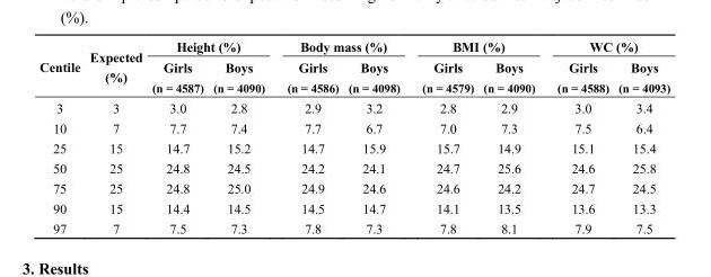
<table><thead><tr><td rowspan="3">Centile</td><td rowspan="3">Expected (%)</td><td colspan="2">Height (%)</td><td colspan="2">Body mass (%)</td><td colspan="2">BMI (%)</td><td colspan="2">WC (%)</td></tr><tr><td rowspan="2">Girls (n = 4587)</td><td rowspan="2">Boys (n = 4090)</td><td rowspan="2">Girls (n = 4586)</td><td rowspan="2">Boys (n = 4098)</td><td rowspan="2">Girls (n = 4579)</td><td rowspan="2">Boys (n = 4090)</td><td rowspan="2">Girls (n = 4588)</td><td rowspan="2">Boys (n = 4093)</td></tr><tr></tr></thead><tbody><tr><td>3</td><td>3</td><td>3.0</td><td>2.8</td><td>2.9</td><td>3.2</td><td>2.8</td><td>2.9</td><td>3.0</td><td>3.4</td></tr><tr><td>10</td><td>7</td><td>7.7</td><td>7.4</td><td>7.7</td><td>6.7</td><td>7.0</td><td>7.3</td><td>7.5</td><td>6.4</td></tr><tr><td>25</td><td>15</td><td>14.7</td><td>15.2</td><td>14.7</td><td>15.9</td><td>15.7</td><td>14.9</td><td>15.1</td><td>15.4</td></tr><tr><td>50</td><td>25</td><td>24.8</td><td>24.5</td><td>24.2</td><td>24.1</td><td>24.7</td><td>25.6</td><td>24.6</td><td>25.8</td></tr><tr><td>75</td><td>25</td><td>24.8</td><td>25.0</td><td>24.9</td><td>24.6</td><td>24.6</td><td>24.2</td><td>24.7</td><td>24.5</td></tr><tr><td>90</td><td>15</td><td>14.4</td><td>14.5</td><td>14.5</td><td>14.7</td><td>14.1</td><td>13.5</td><td>13.6</td><td>13.3</td></tr><tr><td>97</td><td>7</td><td>7.5</td><td>7.3</td><td>7.8</td><td>7.3</td><td>7.8</td><td>8.1</td><td>7.9</td><td>7.5</td></tr></tbody></table>